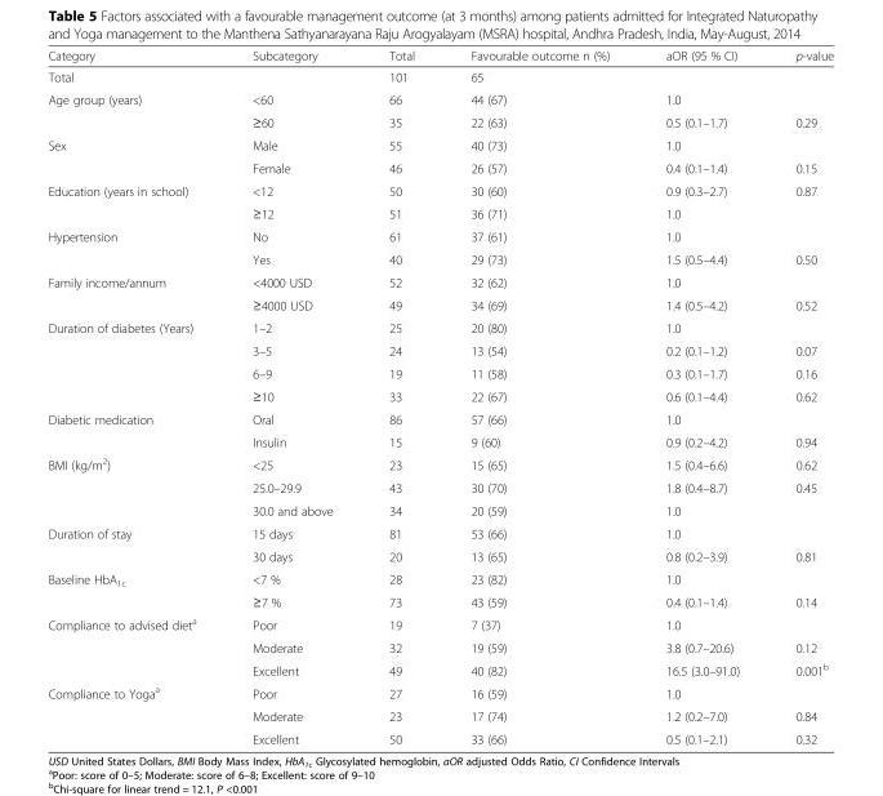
<table><thead><tr><td>Category</td><td>Subcategory</td><td>Total</td><td>Favourable outcome n (%)</td><td>aOR (95 % CI)</td><td>p-value</td></tr></thead><tbody><tr><td>Total</td><td></td><td>101</td><td>65</td><td></td><td></td></tr><tr><td rowspan="2">Age group (years)</td><td>&lt;60</td><td>66</td><td>44 (67)</td><td>1.0</td><td></td></tr><tr><td>≥60</td><td>35</td><td>22 (63)</td><td>0.5 (0.1–1.7)</td><td>0.29</td></tr><tr><td rowspan="2">Sex</td><td>Male</td><td>55</td><td>40 (73)</td><td>1.0</td><td></td></tr><tr><td>Female</td><td>46</td><td>26 (57)</td><td>0.4 (0.1–1.4)</td><td>0.15</td></tr><tr><td rowspan="2">Education (years in school)</td><td>&lt;12</td><td>50</td><td>30 (60)</td><td>0.9 (0.3–2.7)</td><td>0.87</td></tr><tr><td>≥12</td><td>51</td><td>36 (71)</td><td>1.0</td><td></td></tr><tr><td rowspan="2">Hypertension</td><td>No</td><td>61</td><td>37 (61)</td><td>1.0</td><td></td></tr><tr><td>Yes</td><td>40</td><td>29 (73)</td><td>1.5 (0.5–4.4)</td><td>0.50</td></tr><tr><td rowspan="2">Family income/annum</td><td>&lt;4000 USD</td><td>52</td><td>32 (62)</td><td>1.0</td><td></td></tr><tr><td>≥4000 USD</td><td>49</td><td>34 (69)</td><td>1.4 (0.5–4.2)</td><td>0.52</td></tr><tr><td rowspan="4">Duration of diabetes (Years)</td><td>1–2</td><td>25</td><td>20 (80)</td><td>1.0</td><td></td></tr><tr><td>3–5</td><td>24</td><td>13 (54)</td><td>0.2 (0.1–1.2)</td><td>0.07</td></tr><tr><td>6–9</td><td>19</td><td>11 (58)</td><td>0.3 (0.1–1.7)</td><td>0.16</td></tr><tr><td>≥10</td><td>33</td><td>22 (67)</td><td>0.6 (0.1–4.4)</td><td>0.62</td></tr><tr><td rowspan="2">Diabetic medication</td><td>Oral</td><td>86</td><td>57 (66)</td><td>1.0</td><td></td></tr><tr><td>Insulin</td><td>15</td><td>9 (60)</td><td>0.9 (0.2–4.2)</td><td>0.94</td></tr><tr><td rowspan="3">BMI (kg/m<sup>2</sup>)</td><td>&lt;25</td><td>23</td><td>15 (65)</td><td>1.5 (0.4–6.6)</td><td>0.62</td></tr><tr><td>25.0–29.9</td><td>43</td><td>30 (70)</td><td>1.8 (0.4–8.7)</td><td>0.45</td></tr><tr><td>30.0 and above</td><td>34</td><td>20 (59)</td><td>1.0</td><td></td></tr><tr><td rowspan="2">Duration of stay</td><td>15 days</td><td>81</td><td>53 (66)</td><td>1.0</td><td></td></tr><tr><td>30 days</td><td>20</td><td>13 (65)</td><td>0.8 (0.2–3.9)</td><td>0.81</td></tr><tr><td rowspan="2">Baseline HbA<sub>1c</sub></td><td>&lt;7 %</td><td>28</td><td>23 (82)</td><td>1.0</td><td></td></tr><tr><td>≥7 %</td><td>73</td><td>43 (59)</td><td>0.4 (0.1–1.4)</td><td>0.14</td></tr><tr><td rowspan="3">Compliance to advised diet<sup>a</sup></td><td>Poor</td><td>19</td><td>7 (37)</td><td>1.0</td><td></td></tr><tr><td>Moderate</td><td>32</td><td>19 (59)</td><td>3.8 (0.7–20.6)</td><td>0.12</td></tr><tr><td>Excellent</td><td>49</td><td>40 (82)</td><td>16.5 (3.0–91.0)</td><td>0.001<sup>b</sup></td></tr><tr><td rowspan="3">Compliance to Yoga<sup>a</sup></td><td>Poor</td><td>27</td><td>16 (59)</td><td>1.0</td><td></td></tr><tr><td>Moderate</td><td>23</td><td>17 (74)</td><td>1.2 (0.2–7.0)</td><td>0.84</td></tr><tr><td>Excellent</td><td>50</td><td>33 (66)</td><td>0.5 (0.1–2.1)</td><td>0.32</td></tr></tbody></table>